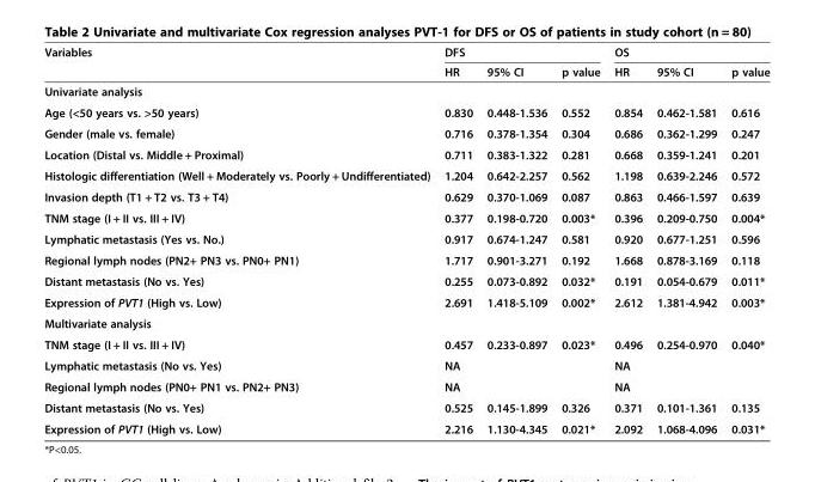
<table><thead><tr><td rowspan="2">Variables</td><td colspan="3">DFS</td><td colspan="3">OS</td></tr><tr><td>HR</td><td>95% CI</td><td>p value</td><td>HR</td><td>95% CI</td><td>p value</td></tr></thead><tbody><tr><td colspan="7">Univariate analysis</td></tr><tr><td>Age (&lt;50 years vs. &gt;50 years)</td><td>0.830</td><td>0.448-1.536</td><td>0.552</td><td>0.854</td><td>0.462-1.581</td><td>0.616</td></tr><tr><td>Gender (male vs. female)</td><td>0.716</td><td>0.378-1.354</td><td>0.304</td><td>0.686</td><td>0.362-1.299</td><td>0.247</td></tr><tr><td>Location (Distal vs. Middle + Proximal)</td><td>0.711</td><td>0.383-1.322</td><td>0.281</td><td>0.668</td><td>0.359-1.241</td><td>0.201</td></tr><tr><td>Histologic differentiation (Well + Moderately vs. Poorly + Undifferentiated)</td><td>1.204</td><td>0.642-2.257</td><td>0.562</td><td>1.198</td><td>0.639-2.246</td><td>0.572</td></tr><tr><td>Invasion depth (T1 + T2 vs. T3 + T4)</td><td>0.629</td><td>0.370-1.069</td><td>0.087</td><td>0.863</td><td>0.466-1.597</td><td>0.639</td></tr><tr><td>TNM stage (I + II vs. III + IV)</td><td>0.377</td><td>0.198-0.720</td><td>0.003*</td><td>0.396</td><td>0.209-0.750</td><td>0.004*</td></tr><tr><td>Lymphatic metastasis (Yes vs. No.)</td><td>0.917</td><td>0.674-1.247</td><td>0.581</td><td>0.920</td><td>0.677-1.251</td><td>0.596</td></tr><tr><td>Regional lymph nodes (PN2+ PN3 vs. PN0+ PN1)</td><td>1.717</td><td>0.901-3.271</td><td>0.192</td><td>1.668</td><td>0.878-3.169</td><td>0.118</td></tr><tr><td>Distant metastasis (No vs. Yes)</td><td>0.255</td><td>0.073-0.892</td><td>0.032*</td><td>0.191</td><td>0.054-0.679</td><td>0.011*</td></tr><tr><td>Expression of PVT1 (High vs. Low)</td><td>2.691</td><td>1.418-5.109</td><td>0.002*</td><td>2.612</td><td>1.381-4.942</td><td>0.003*</td></tr><tr><td colspan="7">Multivariate analysis</td></tr><tr><td>TNM stage (I + II vs. III + IV)</td><td>0.457</td><td>0.233-0.897</td><td>0.023*</td><td>0.496</td><td>0.254-0.970</td><td>0.040*</td></tr><tr><td>Lymphatic metastasis (No vs. Yes)</td><td>NA</td><td></td><td></td><td>NA</td><td></td><td></td></tr><tr><td>Regional lymph nodes (PN0+ PN1 vs. PN2+ PN3)</td><td>NA</td><td></td><td></td><td>NA</td><td></td><td></td></tr><tr><td>Distant metastasis (No vs. Yes)</td><td>0.525</td><td>0.145-1.899</td><td>0.326</td><td>0.371</td><td>0.101-1.361</td><td>0.135</td></tr><tr><td>Expression of PVT1 (High vs. Low)</td><td>2.216</td><td>1.130-4.345</td><td>0.021*</td><td>2.092</td><td>1.068-4.096</td><td>0.031*</td></tr></tbody></table>